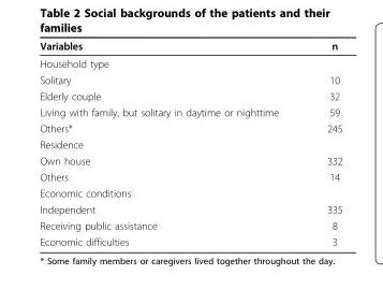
<table><thead><tr><td>Variables</td><td>n</td></tr></thead><tbody><tr><td colspan="2">Household type</td></tr><tr><td>Solitary</td><td>10</td></tr><tr><td>Elderly couple</td><td>32</td></tr><tr><td>Living with family, but solitary in daytime or nighttime</td><td>59</td></tr><tr><td>Others*</td><td>245</td></tr><tr><td colspan="2">Residence</td></tr><tr><td>Own house</td><td>332</td></tr><tr><td>Others</td><td>14</td></tr><tr><td colspan="2">Economic conditions</td></tr><tr><td>Independent</td><td>335</td></tr><tr><td>Receiving public assistance</td><td>8</td></tr><tr><td>Economic difficulties</td><td>3</td></tr></tbody></table>